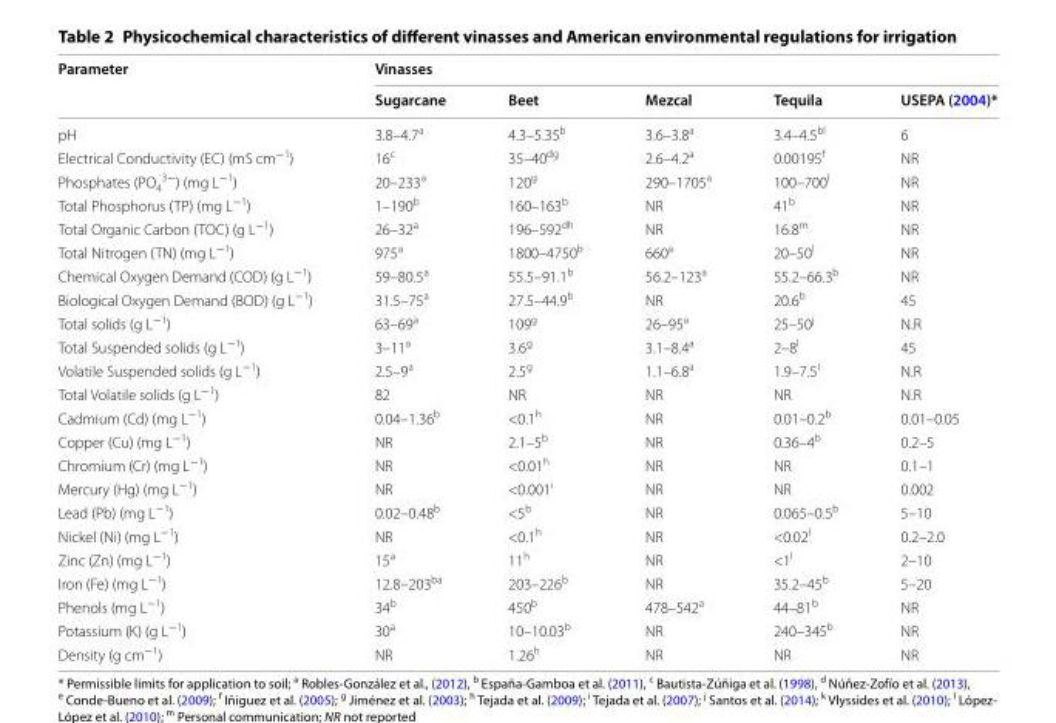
<table><thead><tr><td rowspan="2">Parameter</td><td colspan="5">Vinasses</td></tr><tr><td>Sugarcane</td><td>Beet</td><td>Mezcal</td><td>Tequila</td><td>USEPA (2004)*</td></tr></thead><tbody><tr><td>pH</td><td>3.8–4.7<sup>a</sup></td><td>4.3–5.35<sup>b</sup></td><td>3.6–3.8<sup>a</sup></td><td>3.4–4.5<sup>bl</sup></td><td>6</td></tr><tr><td>Electrical Conductivity (EC) (mS cm<sup>−1</sup>)</td><td>16<sup>c</sup></td><td>35–40<sup>dg</sup></td><td>2.6–4.2<sup>a</sup></td><td>0.00195<sup>f</sup></td><td>NR</td></tr><tr><td>Phosphates (PO<sub>4</sub> <sup>3−</sup>) (mg L<sup>−1</sup>)</td><td>20–233<sup>a</sup></td><td>120<sup>g</sup></td><td>290–1705<sup>a</sup></td><td>100–700<sup>l</sup></td><td>NR</td></tr><tr><td>Total Phosphorus (TP) (mg L<sup>−1</sup>)</td><td>1–190<sup>b</sup></td><td>160–163<sup>b</sup></td><td>NR</td><td>41<sup>b</sup></td><td>NR</td></tr><tr><td>Total Organic Carbon (TOC) (g L<sup>−1</sup>)</td><td>26–32<sup>a</sup></td><td>196–592<sup>dh</sup></td><td>NR</td><td>16.8<sup>m</sup></td><td>NR</td></tr><tr><td>Total Nitrogen (TN) (mg L<sup>−1</sup>)</td><td>975<sup>a</sup></td><td>1800–4750<sup>b</sup></td><td>660<sup>a</sup></td><td>20–50<sup>l</sup></td><td>NR</td></tr><tr><td>Chemical Oxygen Demand (COD) (g L<sup>−1</sup>)</td><td>59–80.5<sup>a</sup></td><td>55.5–91.1<sup>b</sup></td><td>56.2–123<sup>a</sup></td><td>55.2–66.3<sup>b</sup></td><td>NR</td></tr><tr><td>Biological Oxygen Demand (BOD) (g L<sup>−1</sup>)</td><td>31.5–75<sup>a</sup></td><td>27.5–44.9<sup>b</sup></td><td>NR</td><td>20.6<sup>b</sup></td><td>45</td></tr><tr><td>Total solids (g L<sup>−1</sup>)</td><td>63–69<sup>a</sup></td><td>109<sup>g</sup></td><td>26–95<sup>a</sup></td><td>25–50<sup>j</sup></td><td>N.R</td></tr><tr><td>Total Suspended solids (g L<sup>−1</sup>)</td><td>3–11<sup>a</sup></td><td>3.6<sup>g</sup></td><td>3.1–8.4<sup>a</sup></td><td>2–8<sup>l</sup></td><td>45</td></tr><tr><td>Volatile Suspended solids (g L<sup>−1</sup>)</td><td>2.5–9<sup>a</sup></td><td>2.5<sup>g</sup></td><td>1.1–6.8<sup>a</sup></td><td>1.9–7.5<sup>l</sup></td><td>N.R</td></tr><tr><td>Total Volatile solids (g L<sup>−1</sup>)</td><td>82</td><td>NR</td><td>NR</td><td>NR</td><td>N.R</td></tr><tr><td>Cadmium (Cd) (mg L<sup>−1</sup>)</td><td>0.04–1.36<sup>b</sup></td><td>&lt;0.1<sup>h</sup></td><td>NR</td><td>0.01–0.2<sup>b</sup></td><td>0.01–0.05</td></tr><tr><td>Copper (Cu) (mg L<sup>−1</sup>)</td><td>NR</td><td>2.1–5<sup>b</sup></td><td>NR</td><td>0.36–4<sup>b</sup></td><td>0.2–5</td></tr><tr><td>Chromium (Cr) (mg L<sup>−1</sup>)</td><td>NR</td><td>&lt;0.01<sup>h</sup></td><td>NR</td><td>NR</td><td>0.1–1</td></tr><tr><td>Mercury (Hg) (mg L<sup>−1</sup>)</td><td>NR</td><td>&lt;0.001<sup>i</sup></td><td>NR</td><td>NR</td><td>0.002</td></tr><tr><td>Lead (Pb) (mg L<sup>−1</sup>)</td><td>0.02–0.48<sup>b</sup></td><td>&lt;5<sup>b</sup></td><td>NR</td><td>0.065–0.5<sup>b</sup></td><td>5–10</td></tr><tr><td>Nickel (Ni) (mg L<sup>−1</sup>)</td><td>NR</td><td>&lt;0.1<sup>h</sup></td><td>NR</td><td>&lt;0.02<sup>l</sup></td><td>0.2–2.0</td></tr><tr><td>Zinc (Zn) (mg L<sup>−1</sup>)</td><td>15<sup>a</sup></td><td>11<sup>h</sup></td><td>NR</td><td>&lt;1<sup>l</sup></td><td>2–10</td></tr><tr><td>Iron (Fe) (mg L<sup>−1</sup>)</td><td>12.8–203<sup>ba</sup></td><td>203–226<sup>b</sup></td><td>NR</td><td>35.2–45<sup>b</sup></td><td>5–20</td></tr><tr><td>Phenols (mg L<sup>−1</sup>)</td><td>34<sup>b</sup></td><td>450<sup>b</sup></td><td>478–542<sup>a</sup></td><td>44–81<sup>b</sup></td><td>NR</td></tr><tr><td>Potassium (K) (g L<sup>−1</sup>)</td><td>30<sup>a</sup></td><td>10–10.03<sup>b</sup></td><td>NR</td><td>240–345<sup>b</sup></td><td>NR</td></tr><tr><td>Density (g cm<sup>−1</sup>)</td><td>NR</td><td>1.26<sup>h</sup></td><td>NR</td><td>NR</td><td>NR</td></tr></tbody></table>